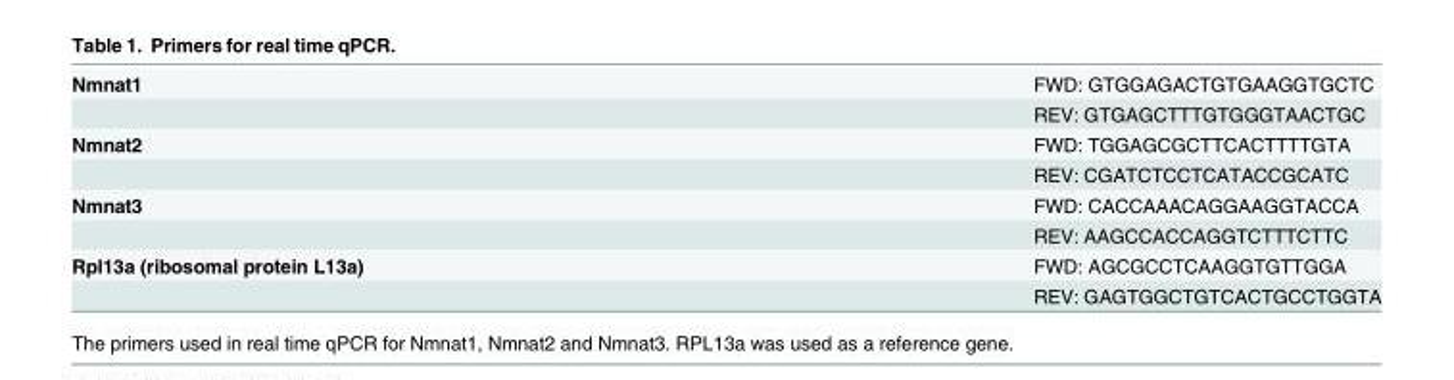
<table><tbody><tr><td rowspan="2">Nmnat1</td><td>FWD: GTGGAGACTGTGAAGGTGCTC</td></tr><tr><td>REV: GTGAGCTTTGTGGGTAACTGC</td></tr><tr><td rowspan="2">Nmnat2</td><td>FWD: TGGAGCGCTTCACTTTTGTA</td></tr><tr><td>REV: CGATCTCCTCATACCGCATC</td></tr><tr><td rowspan="2">Nmnat3</td><td>FWD: CACCAAACAGGAAGGTACCA</td></tr><tr><td>REV: AAGCCACCAGGTCTTTCTTC</td></tr><tr><td rowspan="2">Rpl13a (ribosomal protein L13a)</td><td>FWD: AGCGCCTCAAGGTGTTGGA</td></tr><tr><td>REV: GAGTGGCTGTCACTGCCTGGTA</td></tr></tbody></table>